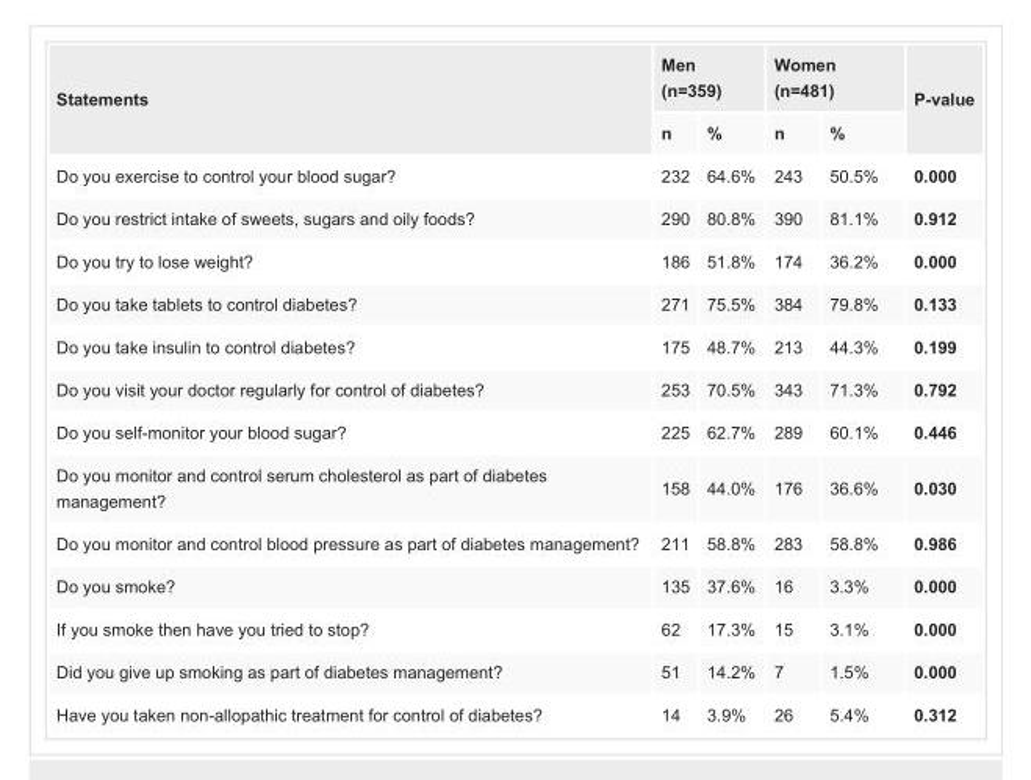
<table><tbody><tr><td rowspan="2">Statements</td><td colspan="2">Men (n=359)</td><td colspan="2">Women (n=481)</td><td rowspan="2">P-value</td></tr><tr><td>n</td><td>%</td><td>n</td><td>%</td></tr><tr><td>Do you exercise to control your blood sugar?</td><td>232</td><td>64.6%</td><td>243</td><td>50.5%</td><td>0.000</td></tr><tr><td>Do you restrict intake of sweets, sugars and oily foods?</td><td>290</td><td>80.8%</td><td>390</td><td>81.1%</td><td>0.912</td></tr><tr><td>Do you try to lose weight?</td><td>186</td><td>51.8%</td><td>174</td><td>36.2%</td><td>0.000</td></tr><tr><td>Do you take tablets to control diabetes?</td><td>271</td><td>75.5%</td><td>384</td><td>79.8%</td><td>0.133</td></tr><tr><td>Do you take insulin to control diabetes?</td><td>175</td><td>48.7%</td><td>213</td><td>44.3%</td><td>0.199</td></tr><tr><td>Do you visit your doctor regularly for control of diabetes?</td><td>253</td><td>70.5%</td><td>343</td><td>71.3%</td><td>0.792</td></tr><tr><td>Do you self-monitor your blood sugar?</td><td>225</td><td>62.7%</td><td>289</td><td>60.1%</td><td>0.446</td></tr><tr><td>Do you monitor and control serum cholesterol as part of diabetes management?</td><td>158</td><td>44.0%</td><td>176</td><td>36.6%</td><td>0.030</td></tr><tr><td>Do you monitor and control blood pressure as part of diabetes management?</td><td>211</td><td>58.8%</td><td>283</td><td>58.8%</td><td>0.986</td></tr><tr><td>Do you smoke?</td><td>135</td><td>37.6%</td><td>16</td><td>3.3%</td><td>0.000</td></tr><tr><td>If you smoke then have you tried to stop?</td><td>62</td><td>17.3%</td><td>15</td><td>3.1%</td><td>0.000</td></tr><tr><td>Did you give up smoking as part of diabetes management?</td><td>51</td><td>14.2%</td><td>7</td><td>1.5%</td><td>0.000</td></tr><tr><td>Have you taken non-allopathic treatment for control of diabetes?</td><td>14</td><td>3.9%</td><td>26</td><td>5.4%</td><td>0.312</td></tr></tbody></table>